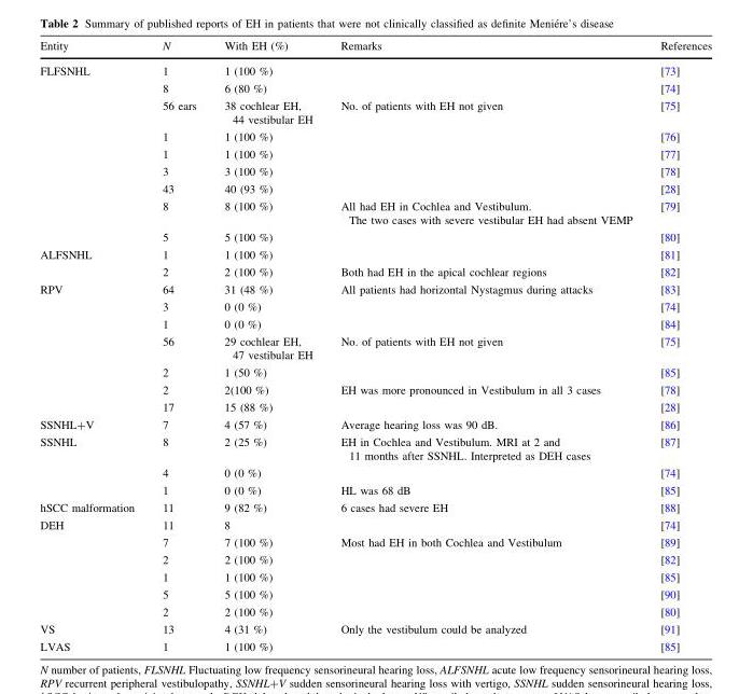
<table><thead><tr><td>Entity</td><td>N</td><td>With EH (%)</td><td>Remarks</td><td>References</td></tr></thead><tbody><tr><td rowspan="9">FLFSNHL</td><td>1</td><td>1 (100 %)</td><td></td><td>[73]</td></tr><tr><td>8</td><td>6 (80 %)</td><td></td><td>[74]</td></tr><tr><td>56 ears</td><td>38 cochlear EH, 44 vestibular EH</td><td>No. of patients with EH not given</td><td>[75]</td></tr><tr><td>1</td><td>1 (100 %)</td><td></td><td>[76]</td></tr><tr><td>1</td><td>1 (100 %)</td><td></td><td>[77]</td></tr><tr><td>3</td><td>3 (100 %)</td><td></td><td>[78]</td></tr><tr><td>43</td><td>40 (93 %)</td><td></td><td>[28]</td></tr><tr><td>8</td><td>8 (100 %)</td><td>All had EH in Cochlea and Vestibulum. The two cases with severe vestibular EH had absent VEMP</td><td>[79]</td></tr><tr><td>5</td><td>5 (100 %)</td><td></td><td>[80]</td></tr><tr><td rowspan="2">ALFSNHL</td><td>1</td><td>1 (100 %)</td><td></td><td>[81]</td></tr><tr><td>2</td><td>2 (100 %)</td><td>Both had EH in the apical cochlear regions</td><td>[82]</td></tr><tr><td rowspan="7">RPV</td><td>64</td><td>31 (48 %)</td><td>All patients had horizontal Nystagmus during attacks</td><td>[83]</td></tr><tr><td>3</td><td>0 (0 %)</td><td></td><td>[74]</td></tr><tr><td>1</td><td>0 (0 %)</td><td></td><td>[84]</td></tr><tr><td>56</td><td>29 cochlear EH, 47 vestibular EH</td><td>No. of patients with EH not given</td><td>[75]</td></tr><tr><td>2</td><td>1 (50 %)</td><td></td><td>[85]</td></tr><tr><td>2</td><td>2(100 %)</td><td>EH was more pronounced in Vestibulum in all 3 cases</td><td>[78]</td></tr><tr><td>17</td><td>15 (88 %)</td><td></td><td>[28]</td></tr><tr><td>SSNHL+V</td><td>7</td><td>4 (57 %)</td><td>Average hearing loss was 90 dB.</td><td>[86]</td></tr><tr><td rowspan="3">SSNHL</td><td>8</td><td>2 (25 %)</td><td>EH in Cochlea and Vestibulum. MRI at 2 and 11 months after SSNHL. Interpreted as DEH cases</td><td>[87]</td></tr><tr><td>4</td><td>0 (0 %)</td><td></td><td>[74]</td></tr><tr><td>1</td><td>0 (0 %)</td><td>HL was 68 dB</td><td>[85]</td></tr><tr><td>hSCC malformation</td><td>11</td><td>9 (82 %)</td><td>6 cases had severe EH</td><td>[88]</td></tr><tr><td rowspan="6">DEH</td><td>11</td><td>8</td><td></td><td>[74]</td></tr><tr><td>7</td><td>7 (100 %)</td><td>Most had EH in both Cochlea and Vestibulum</td><td>[89]</td></tr><tr><td>2</td><td>2 (100 %)</td><td></td><td>[82]</td></tr><tr><td>1</td><td>1 (100 %)</td><td></td><td>[85]</td></tr><tr><td>5</td><td>5 (100 %)</td><td></td><td>[90]</td></tr><tr><td>2</td><td>2 (100 %)</td><td></td><td>[80]</td></tr><tr><td>VS</td><td>13</td><td>4 (31 %)</td><td>Only the vestibulum could be analyzed</td><td>[91]</td></tr><tr><td>LVAS</td><td>1</td><td>1 (100 %)</td><td></td><td>[85]</td></tr></tbody></table>